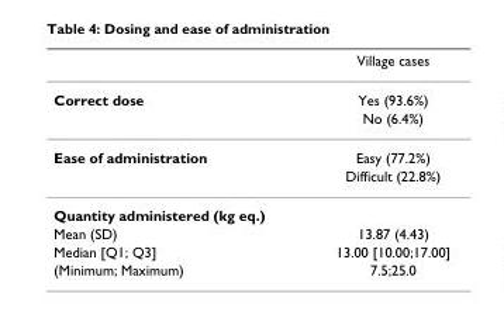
<table><thead><tr><td></td><td>Village cases</td></tr></thead><tbody><tr><td rowspan="2">Correct dose</td><td>Yes (93.6%)</td></tr><tr><td>No (6.4%)</td></tr><tr><td rowspan="2">Ease of administration</td><td>Easy (77.2%)</td></tr><tr><td>Difficult (22.8%)</td></tr><tr><td colspan="2">Quantity administered (kg eq.)</td></tr><tr><td>Mean (SD)</td><td>13.87 (4.43)</td></tr><tr><td>Median [Q1; Q3]</td><td>13.00 [10.00;17.00]</td></tr><tr><td>(Minimum; Maximum)</td><td>7.5;25.0</td></tr></tbody></table>